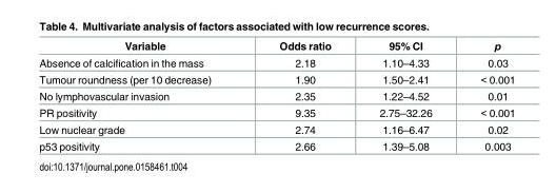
<table><thead><tr><td>Variable</td><td>Odds ratio</td><td>95% CI</td><td>p</td></tr></thead><tbody><tr><td>Absence of calcification in the mass</td><td>2.18</td><td>1.10–4.33</td><td>0.03</td></tr><tr><td>Tumour roundness (per 10 decrease)</td><td>1.90</td><td>1.50–2.41</td><td>&lt; 0.001</td></tr><tr><td>No lymphovascular invasion</td><td>2.35</td><td>1.22–4.52</td><td>0.01</td></tr><tr><td>PR positivity</td><td>9.35</td><td>2.75–32.26</td><td>&lt; 0.001</td></tr><tr><td>Low nuclear grade</td><td>2.74</td><td>1.16–6.47</td><td>0.02</td></tr><tr><td>p53 positivity</td><td>2.66</td><td>1.39–5.08</td><td>0.003</td></tr></tbody></table>